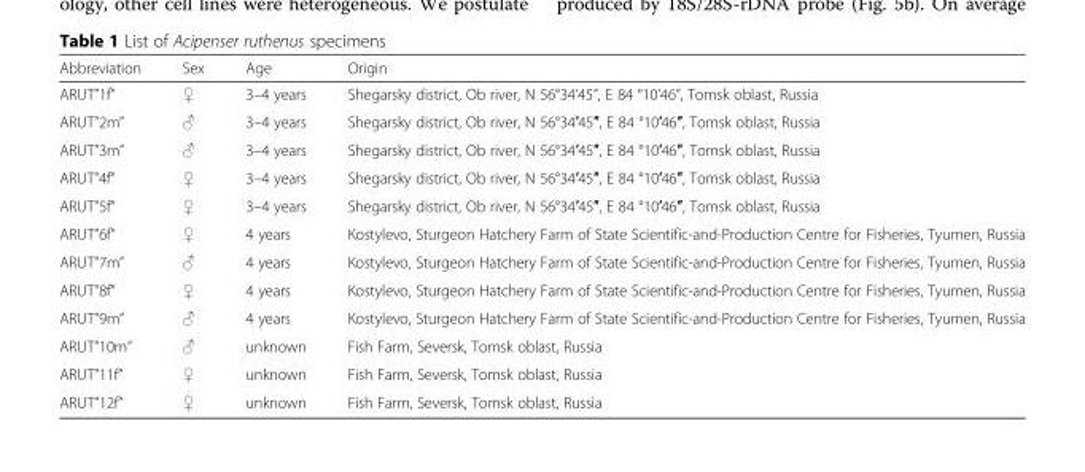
<table><thead><tr><td>Abbreviation</td><td>Sex</td><td>Age</td><td>Origin</td></tr></thead><tbody><tr><td>ARUT”1f”</td><td>♀</td><td>3–4 years</td><td>Shegarsky district, Ob river, N 56°34’45”, E 84 °10’46”, Tomsk oblast, Russia</td></tr><tr><td>ARUT”2m”</td><td>♂</td><td>3–4 years</td><td>Shegarsky district, Ob river, N 56°34′45″, E 84 °10′46″, Tomsk oblast, Russia</td></tr><tr><td>ARUT”3m”</td><td>♂</td><td>3–4 years</td><td>Shegarsky district, Ob river, N 56°34′45″, E 84 °10′46″, Tomsk oblast, Russia</td></tr><tr><td>ARUT”4f”</td><td>♀</td><td>3–4 years</td><td>Shegarsky district, Ob river, N 56°34′45″, E 84 °10′46″, Tomsk oblast, Russia</td></tr><tr><td>ARUT”5f”</td><td>♀</td><td>3–4 years</td><td>Shegarsky district, Ob river, N 56°34′45″, E 84 °10′46″, Tomsk oblast, Russia</td></tr><tr><td>ARUT”6f”</td><td>♀</td><td>4 years</td><td>Kostylevo, Sturgeon Hatchery Farm of State Scientific-and-Production Centre for Fisheries, Tyumen, Russia</td></tr><tr><td>ARUT”7m”</td><td>♂</td><td>4 years</td><td>Kostylevo, Sturgeon Hatchery Farm of State Scientific-and-Production Centre for Fisheries, Tyumen, Russia</td></tr><tr><td>ARUT”8f”</td><td>♀</td><td>4 years</td><td>Kostylevo, Sturgeon Hatchery Farm of State Scientific-and-Production Centre for Fisheries, Tyumen, Russia</td></tr><tr><td>ARUT”9m”</td><td>♂</td><td>4 years</td><td>Kostylevo, Sturgeon Hatchery Farm of State Scientific-and-Production Centre for Fisheries, Tyumen, Russia</td></tr><tr><td>ARUT”10m”</td><td>♂</td><td>unknown</td><td>Fish Farm, Seversk, Tomsk oblast, Russia</td></tr><tr><td>ARUT”11f”</td><td>♀</td><td>unknown</td><td>Fish Farm, Seversk, Tomsk oblast, Russia</td></tr><tr><td>ARUT”12f”</td><td>♀</td><td>unknown</td><td>Fish Farm, Seversk, Tomsk oblast, Russia</td></tr></tbody></table>